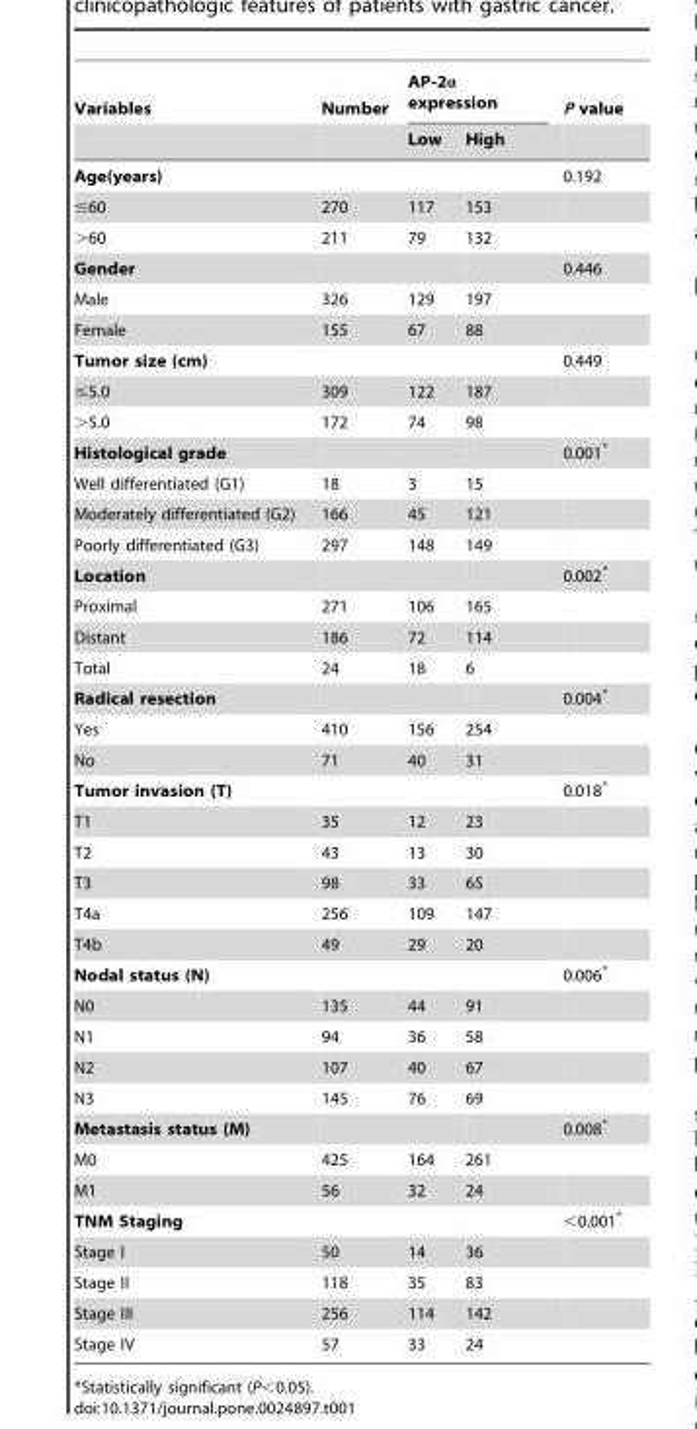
<table><thead><tr><td rowspan="2">Variables</td><td rowspan="2">Number</td><td colspan="2">AP-2α expression</td><td rowspan="2">P value</td></tr><tr><td>Low</td><td>High</td></tr></thead><tbody><tr><td>Age(years)</td><td></td><td></td><td></td><td>0.192</td></tr><tr><td>≤60</td><td>270</td><td>117</td><td>153</td><td></td></tr><tr><td>&gt;60</td><td>211</td><td>79</td><td>132</td><td></td></tr><tr><td>Gender</td><td></td><td></td><td></td><td>0.446</td></tr><tr><td>Male</td><td>326</td><td>129</td><td>197</td><td></td></tr><tr><td>Female</td><td>155</td><td>67</td><td>88</td><td></td></tr><tr><td>Tumor size (cm)</td><td></td><td></td><td></td><td>0.449</td></tr><tr><td>≤5.0</td><td>309</td><td>122</td><td>187</td><td></td></tr><tr><td>&gt;5.0</td><td>172</td><td>74</td><td>98</td><td></td></tr><tr><td>Histological grade</td><td></td><td></td><td></td><td>0.001*</td></tr><tr><td>Well differentiated (G1)</td><td>18</td><td>3</td><td>15</td><td></td></tr><tr><td>Moderately differentiated (G2)</td><td>166</td><td>45</td><td>121</td><td></td></tr><tr><td>Poorly differentiated (G3)</td><td>297</td><td>148</td><td>149</td><td></td></tr><tr><td>Location</td><td></td><td></td><td></td><td>0.002*</td></tr><tr><td>Proximal</td><td>271</td><td>106</td><td>165</td><td></td></tr><tr><td>Distant</td><td>186</td><td>72</td><td>114</td><td></td></tr><tr><td>Total</td><td>24</td><td>18</td><td>6</td><td></td></tr><tr><td>Radical resection</td><td></td><td></td><td></td><td>0.004*</td></tr><tr><td>Yes</td><td>410</td><td>156</td><td>254</td><td></td></tr><tr><td>No</td><td>71</td><td>40</td><td>31</td><td></td></tr><tr><td>Tumor invasion (T)</td><td></td><td></td><td></td><td>0.018*</td></tr><tr><td>T1</td><td>35</td><td>12</td><td>23</td><td></td></tr><tr><td>T2</td><td>43</td><td>13</td><td>30</td><td></td></tr><tr><td>T3</td><td>98</td><td>33</td><td>65</td><td></td></tr><tr><td>T4a</td><td>256</td><td>109</td><td>147</td><td></td></tr><tr><td>T4b</td><td>49</td><td>29</td><td>20</td><td></td></tr><tr><td>Nodal status (N)</td><td></td><td></td><td></td><td>0.006*</td></tr><tr><td>N0</td><td>135</td><td>44</td><td>91</td><td></td></tr><tr><td>N1</td><td>94</td><td>36</td><td>58</td><td></td></tr><tr><td>N2</td><td>107</td><td>40</td><td>67</td><td></td></tr><tr><td>N3</td><td>145</td><td>76</td><td>69</td><td></td></tr><tr><td>Metastasis status (M)</td><td></td><td></td><td></td><td>0.008*</td></tr><tr><td>M0</td><td>425</td><td>164</td><td>261</td><td></td></tr><tr><td>M1</td><td>56</td><td>32</td><td>24</td><td></td></tr><tr><td>TNM Staging</td><td></td><td></td><td></td><td>&lt;0.001*</td></tr><tr><td>Stage I</td><td>50</td><td>14</td><td>36</td><td></td></tr><tr><td>Stage II</td><td>118</td><td>35</td><td>83</td><td></td></tr><tr><td>Stage III</td><td>256</td><td>114</td><td>142</td><td></td></tr><tr><td>Stage IV</td><td>57</td><td>33</td><td>24</td><td></td></tr></tbody></table>